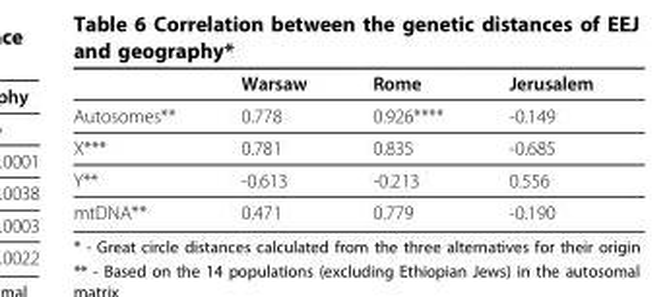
<table><thead><tr><td></td><td>Warsaw</td><td>Rome</td><td>Jerusalem</td></tr></thead><tbody><tr><td>Autosomes**</td><td>0.778</td><td>0.926****</td><td>-0.149</td></tr><tr><td>X***</td><td>0.781</td><td>0.835</td><td>-0.685</td></tr><tr><td>Y**</td><td>-0.613</td><td>-0.213</td><td>0.556</td></tr><tr><td>mtDNA**</td><td>0.471</td><td>0.779</td><td>-0.190</td></tr></tbody></table>